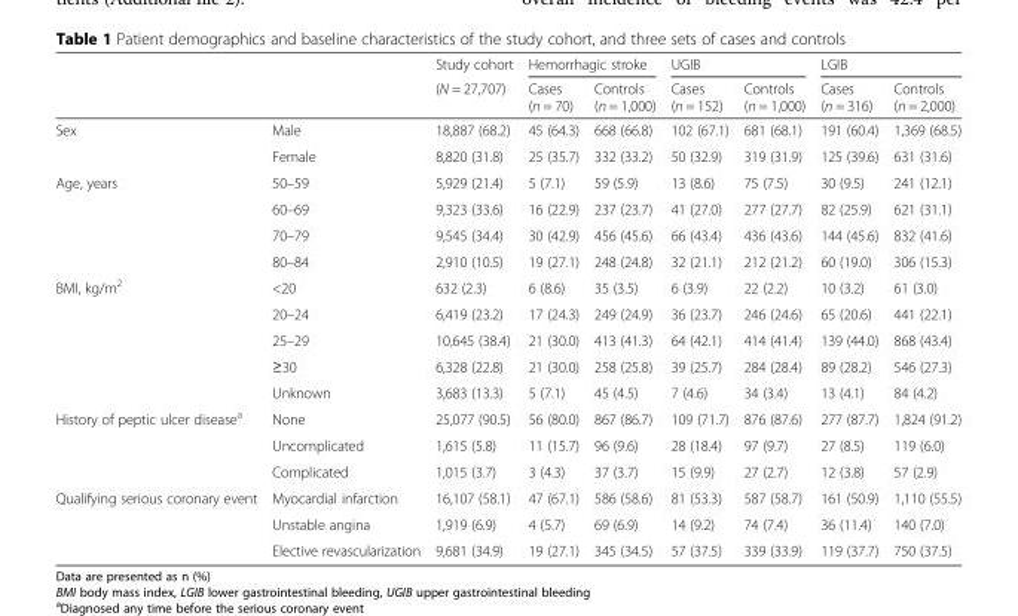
<table><thead><tr><td rowspan="2"></td><td rowspan="2"></td><td rowspan="2">Study cohort (N = 27,707)</td><td colspan="2">Hemorrhagic stroke</td><td colspan="2">UGIB</td><td colspan="2">LGIB</td></tr><tr><td>Cases (n = 70)</td><td>Controls (n = 1,000)</td><td>Cases (n = 152)</td><td>Controls (n = 1,000)</td><td>Cases (n = 316)</td><td>Controls (n = 2,000)</td></tr></thead><tbody><tr><td rowspan="2">Sex</td><td>Male</td><td>18,887 (68.2)</td><td>45 (64.3)</td><td>668 (66.8)</td><td>102 (67.1)</td><td>681 (68.1)</td><td>191 (60.4)</td><td>1,369 (68.5)</td></tr><tr><td>Female</td><td>8,820 (31.8)</td><td>25 (35.7)</td><td>332 (33.2)</td><td>50 (32.9)</td><td>319 (31.9)</td><td>125 (39.6)</td><td>631 (31.6)</td></tr><tr><td rowspan="4">Age, years</td><td>50–59</td><td>5,929 (21.4)</td><td>5 (7.1)</td><td>59 (5.9)</td><td>13 (8.6)</td><td>75 (7.5)</td><td>30 (9.5)</td><td>241 (12.1)</td></tr><tr><td>60–69</td><td>9,323 (33.6)</td><td>16 (22.9)</td><td>237 (23.7)</td><td>41 (27.0)</td><td>277 (27.7)</td><td>82 (25.9)</td><td>621 (31.1)</td></tr><tr><td>70–79</td><td>9,545 (34.4)</td><td>30 (42.9)</td><td>456 (45.6)</td><td>66 (43.4)</td><td>436 (43.6)</td><td>144 (45.6)</td><td>832 (41.6)</td></tr><tr><td>80–84</td><td>2,910 (10.5)</td><td>19 (27.1)</td><td>248 (24.8)</td><td>32 (21.1)</td><td>212 (21.2)</td><td>60 (19.0)</td><td>306 (15.3)</td></tr><tr><td rowspan="5">BMI, kg/m<sup>2</sup></td><td>&lt;20</td><td>632 (2.3)</td><td>6 (8.6)</td><td>35 (3.5)</td><td>6 (3.9)</td><td>22 (2.2)</td><td>10 (3.2)</td><td>61 (3.0)</td></tr><tr><td>20–24</td><td>6,419 (23.2)</td><td>17 (24.3)</td><td>249 (24.9)</td><td>36 (23.7)</td><td>246 (24.6)</td><td>65 (20.6)</td><td>441 (22.1)</td></tr><tr><td>25–29</td><td>10,645 (38.4)</td><td>21 (30.0)</td><td>413 (41.3)</td><td>64 (42.1)</td><td>414 (41.4)</td><td>139 (44.0)</td><td>868 (43.4)</td></tr><tr><td>≥30</td><td>6,328 (22.8)</td><td>21 (30.0)</td><td>258 (25.8)</td><td>39 (25.7)</td><td>284 (28.4)</td><td>89 (28.2)</td><td>546 (27.3)</td></tr><tr><td>Unknown</td><td>3,683 (13.3)</td><td>5 (7.1)</td><td>45 (4.5)</td><td>7 (4.6)</td><td>34 (3.4)</td><td>13 (4.1)</td><td>84 (4.2)</td></tr><tr><td rowspan="3">History of peptic ulcer disease<sup>a</sup></td><td>None</td><td>25,077 (90.5)</td><td>56 (80.0)</td><td>867 (86.7)</td><td>109 (71.7)</td><td>876 (87.6)</td><td>277 (87.7)</td><td>1,824 (91.2)</td></tr><tr><td>Uncomplicated</td><td>1,615 (5.8)</td><td>11 (15.7)</td><td>96 (9.6)</td><td>28 (18.4)</td><td>97 (9.7)</td><td>27 (8.5)</td><td>119 (6.0)</td></tr><tr><td>Complicated</td><td>1,015 (3.7)</td><td>3 (4.3)</td><td>37 (3.7)</td><td>15 (9.9)</td><td>27 (2.7)</td><td>12 (3.8)</td><td>57 (2.9)</td></tr><tr><td rowspan="3">Qualifying serious coronary event</td><td>Myocardial infarction</td><td>16,107 (58.1)</td><td>47 (67.1)</td><td>586 (58.6)</td><td>81 (53.3)</td><td>587 (58.7)</td><td>161 (50.9)</td><td>1,110 (55.5)</td></tr><tr><td>Unstable angina</td><td>1,919 (6.9)</td><td>4 (5.7)</td><td>69 (6.9)</td><td>14 (9.2)</td><td>74 (7.4)</td><td>36 (11.4)</td><td>140 (7.0)</td></tr><tr><td>Elective revascularization</td><td>9,681 (34.9)</td><td>19 (27.1)</td><td>345 (34.5)</td><td>57 (37.5)</td><td>339 (33.9)</td><td>119 (37.7)</td><td>750 (37.5)</td></tr></tbody></table>